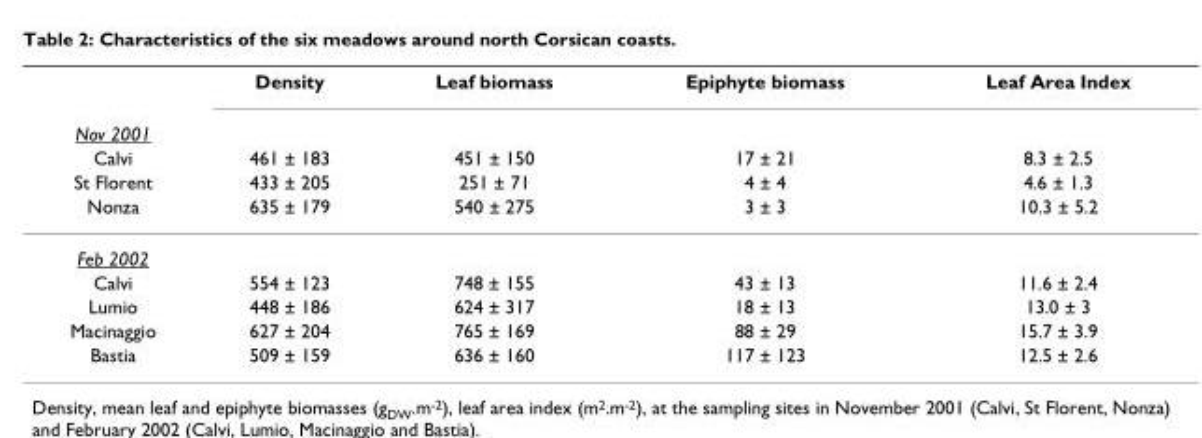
<table><thead><tr><td rowspan="5">Nov 2001 Calvi St Florent Nonza</td><td rowspan="5">Density 461 ± 183 433 ± 205 635 ± 179</td><td rowspan="5">Leaf biomass 451 ± 150 251 ± 71 540 ± 275</td><td rowspan="5">Epiphyte biomass 17 ± 21 4 ± 4 3 ± 3</td><td rowspan="5">Leaf Area Index 8.3 ± 2.5 4.6 ± 1.3 10.3 ± 5.2</td></tr><tr></tr><tr></tr><tr></tr><tr></tr></thead><tbody><tr><td colspan="5">Feb 2002</td></tr><tr><td>Calvi</td><td>554 ± 123</td><td>748 ± 155</td><td>43 ± 13</td><td>11.6 ± 2.4</td></tr><tr><td>Lumio</td><td>448 ± 186</td><td>624 ± 317</td><td>18 ± 13</td><td>13.0 ± 3</td></tr><tr><td>Macinaggio</td><td>627 ± 204</td><td>765 ± 169</td><td>88 ± 29</td><td>15.7 ± 3.9</td></tr><tr><td>Bastia</td><td>509 ± 159</td><td>636 ± 160</td><td>117 ± 123</td><td>12.5 ± 2.6</td></tr></tbody></table>